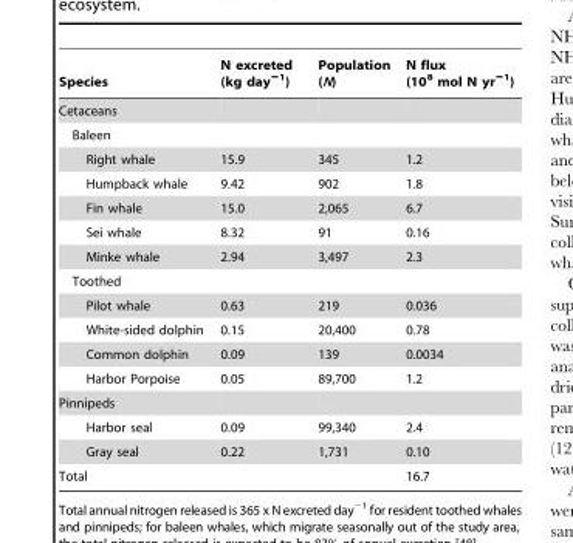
<table><thead><tr><td>Species</td><td>N excreted (kg day<sup>−1</sup>)</td><td>Population (N)</td><td>N flux (10<sup>8</sup> mol N yr<sup>−1</sup>)</td></tr></thead><tbody><tr><td colspan="4">Cetaceans</td></tr><tr><td colspan="4">Baleen</td></tr><tr><td>Right whale</td><td>15.9</td><td>345</td><td>1.2</td></tr><tr><td>Humpback whale</td><td>9.42</td><td>902</td><td>1.8</td></tr><tr><td>Fin whale</td><td>15.0</td><td>2,065</td><td>6.7</td></tr><tr><td>Sei whale</td><td>8.32</td><td>91</td><td>0.16</td></tr><tr><td>Minke whale</td><td>2.94</td><td>3,497</td><td>2.3</td></tr><tr><td colspan="4">Toothed</td></tr><tr><td>Pilot whale</td><td>0.63</td><td>219</td><td>0.036</td></tr><tr><td>White-sided dolphin</td><td>0.15</td><td>20,400</td><td>0.78</td></tr><tr><td>Common dolphin</td><td>0.09</td><td>139</td><td>0.0034</td></tr><tr><td>Harbor Porpoise</td><td>0.05</td><td>89,700</td><td>1.2</td></tr><tr><td colspan="4">Pinnipeds</td></tr><tr><td>Harbor seal</td><td>0.09</td><td>99,340</td><td>2.4</td></tr><tr><td>Gray seal</td><td>0.22</td><td>1,731</td><td>0.10</td></tr><tr><td>Total</td><td></td><td></td><td>16.7</td></tr></tbody></table>